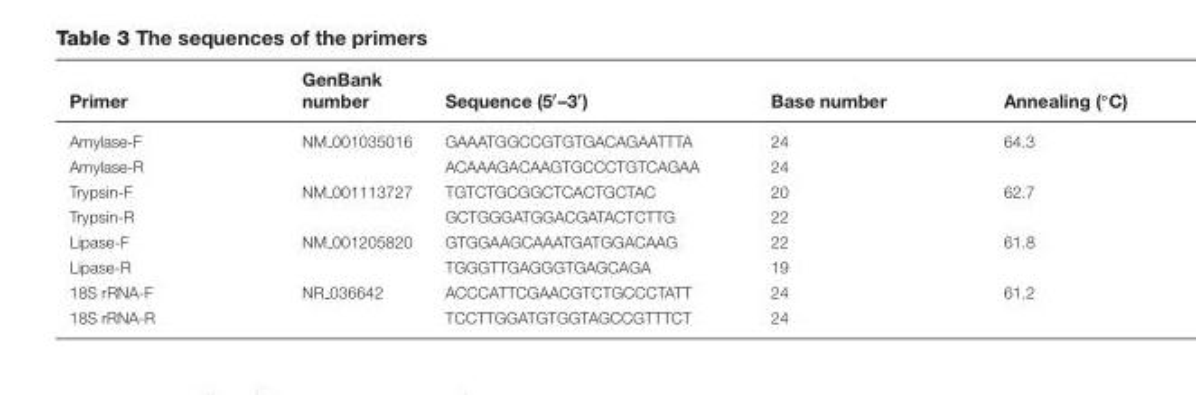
<table><thead><tr><td>Primer</td><td>GenBank number</td><td>Sequence (5′–3′)</td><td>Base number</td><td>Annealing (◦C)</td></tr></thead><tbody><tr><td>Amylase-F</td><td>NM 001035016</td><td>GAAATGGCCGTGTGACAGAATTTA</td><td>24</td><td>64.3</td></tr><tr><td>Amylase-R</td><td></td><td>ACAAAGACAAGTGCCCTGTCAGAA</td><td>24</td><td></td></tr><tr><td>Trypsin-F</td><td>NM 001113727</td><td>TGTCTGCGGCTCACTGCTAC</td><td>20</td><td>62.7</td></tr><tr><td>Trypsin-R</td><td></td><td>GCTGGGATGGACGATACTCTTG</td><td>22</td><td></td></tr><tr><td>Lipase-F</td><td>NM 001205820</td><td>GTGGAAGCAAATGATGGACAAG</td><td>22</td><td>61.8</td></tr><tr><td>Lipase-R</td><td></td><td>TGGGTTGAGGGTGAGCAGA</td><td>19</td><td></td></tr><tr><td>18S rRNA-F</td><td>NR 036642</td><td>ACCCATTCGAACGTCTGCCCTATT</td><td>24</td><td>61.2</td></tr><tr><td>18S rRNA-R</td><td></td><td>TCCTTGGATGTGGTAGCCGTTTCT</td><td>24</td><td></td></tr></tbody></table>